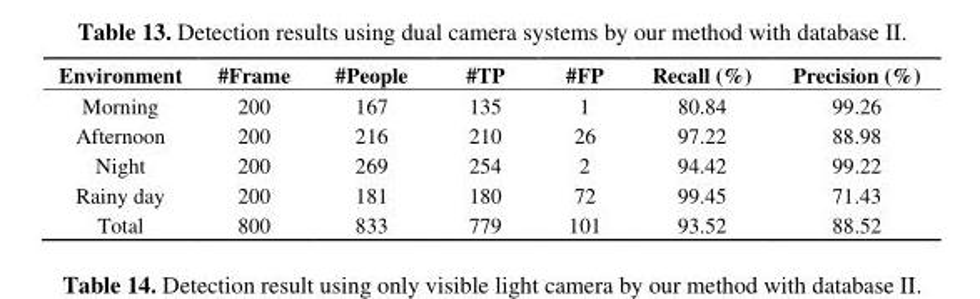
<table><thead><tr><td>Environment</td><td>#Frame</td><td>#People</td><td>#TP</td><td>#FP</td><td>Recall (%)</td><td>Precision (%)</td></tr></thead><tbody><tr><td>Morning</td><td>200</td><td>167</td><td>135</td><td>1</td><td>80.84</td><td>99.26</td></tr><tr><td>Afternoon</td><td>200</td><td>216</td><td>210</td><td>26</td><td>97.22</td><td>88.98</td></tr><tr><td>Night</td><td>200</td><td>269</td><td>254</td><td>2</td><td>94.42</td><td>99.22</td></tr><tr><td>Rainy day</td><td>200</td><td>181</td><td>180</td><td>72</td><td>99.45</td><td>71.43</td></tr><tr><td>Total</td><td>800</td><td>833</td><td>779</td><td>101</td><td>93.52</td><td>88.52</td></tr></tbody></table>